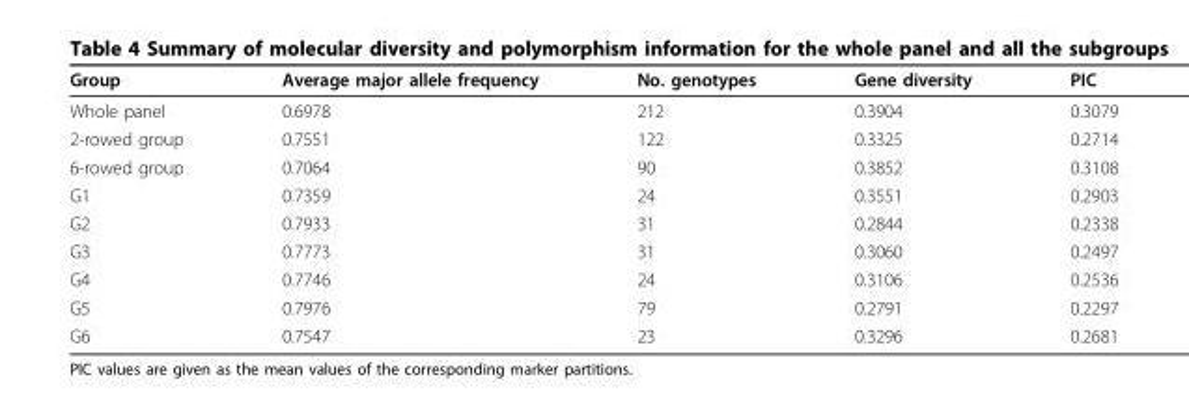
<table><thead><tr><td>Group</td><td>Average major allele frequency</td><td>No. genotypes</td><td>Gene diversity</td><td>PIC</td></tr></thead><tbody><tr><td>Whole panel</td><td>0.6978</td><td>212</td><td>0.3904</td><td>0.3079</td></tr><tr><td>2-rowed group</td><td>0.7551</td><td>122</td><td>0.3325</td><td>0.2714</td></tr><tr><td>6-rowed group</td><td>0.7064</td><td>90</td><td>0.3852</td><td>0.3108</td></tr><tr><td>G1</td><td>0.7359</td><td>24</td><td>0.3551</td><td>0.2903</td></tr><tr><td>G2</td><td>0.7933</td><td>31</td><td>0.2844</td><td>0.2338</td></tr><tr><td>G3</td><td>0.7773</td><td>31</td><td>0.3060</td><td>0.2497</td></tr><tr><td>G4</td><td>0.7746</td><td>24</td><td>0.3106</td><td>0.2536</td></tr><tr><td>G5</td><td>0.7976</td><td>79</td><td>0.2791</td><td>0.2297</td></tr><tr><td>G6</td><td>0.7547</td><td>23</td><td>0.3296</td><td>0.2681</td></tr></tbody></table>